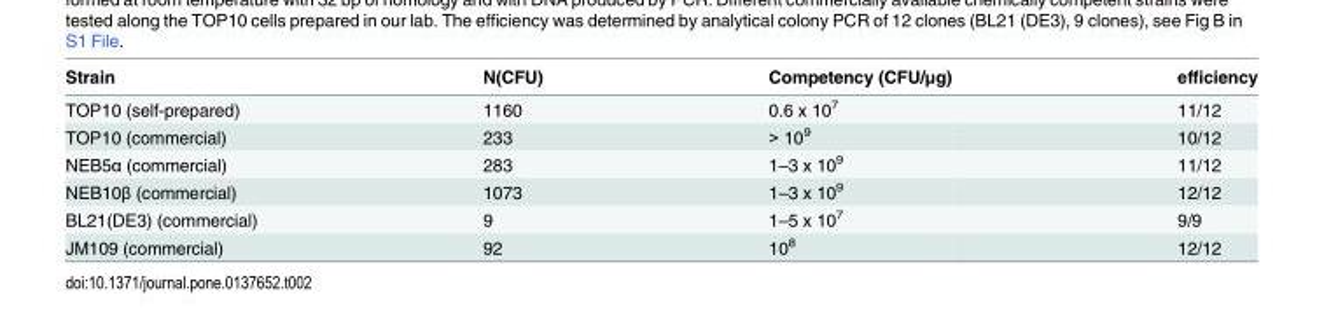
<table><thead><tr><td>Strain</td><td>N(CFU)</td><td>Competency (CFU/μg)</td><td>efficiency</td></tr></thead><tbody><tr><td>TOP10 (self-prepared)</td><td>1160</td><td>0.6 x 10<sup>7</sup></td><td>11/12</td></tr><tr><td>TOP10 (commercial)</td><td>233</td><td>&gt; 10<sup>9</sup></td><td>10/12</td></tr><tr><td>NEB5α (commercial)</td><td>283</td><td>1–3 x 10<sup>9</sup></td><td>11/12</td></tr><tr><td>NEB10β (commercial)</td><td>1073</td><td>1–3 x 10<sup>9</sup></td><td>12/12</td></tr><tr><td>BL21(DE3) (commercial)</td><td>9</td><td>1–5 x 10<sup>7</sup></td><td>9/9</td></tr><tr><td>JM109 (commercial)</td><td>92</td><td>10<sup>8</sup></td><td>12/12</td></tr></tbody></table>